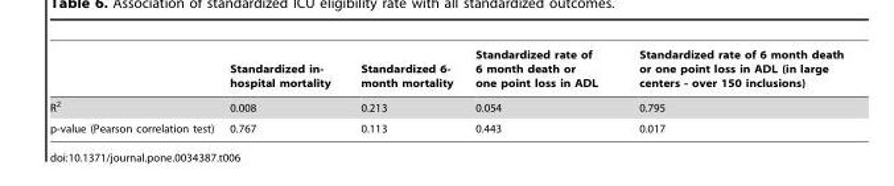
<table><thead><tr><td></td><td>Standardized in- hospital mortality</td><td>Standardized 6- month mortality</td><td>Standardized rate of 6 month death or one point loss in ADL</td><td>Standardized rate of 6 month death or one point loss in ADL (in large centers - over 150 inclusions)</td></tr></thead><tbody><tr><td>R<sup>2</sup></td><td>0.008</td><td>0.213</td><td>0.054</td><td>0.795</td></tr><tr><td>p-value (Pearson correlation test)</td><td>0.767</td><td>0.113</td><td>0.443</td><td>0.017</td></tr></tbody></table>